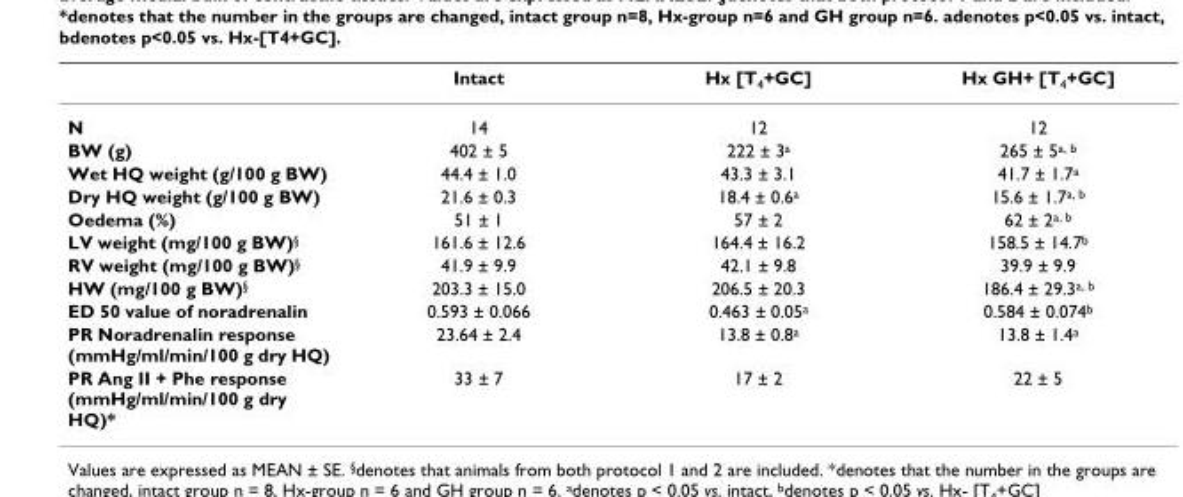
<table><thead><tr><td></td><td>Intact</td><td>Hx [T4+GC]</td><td>Hx GH+ [T4+GC]</td></tr></thead><tbody><tr><td>N</td><td>14</td><td>12</td><td>12</td></tr><tr><td>BW (g)</td><td>402 ± 5</td><td>222 ± 3a</td><td>265 ± 5a, b</td></tr><tr><td>Wet HQ weight (g/100 g BW)</td><td>44.4 ± 1.0</td><td>43.3 ± 3.1</td><td>41.7 ± 1.7a</td></tr><tr><td>Dry HQ weight (g/100 g BW)</td><td>21.6 ± 0.3</td><td>18.4 ± 0.6a</td><td>15.6 ± 1.7a, b</td></tr><tr><td>Oedema (%)</td><td>51 ± 1</td><td>57 ± 2</td><td>62 ± 2a, b</td></tr><tr><td>LV weight (mg/100 g BW)§</td><td>161.6 ± 12.6</td><td>164.4 ± 16.2</td><td>158.5 ± 14.7b</td></tr><tr><td>RV weight (mg/100 g BW)§</td><td>41.9 ± 9.9</td><td>42.1 ± 9.8</td><td>39.9 ± 9.9</td></tr><tr><td>HW (mg/100 g BW)§</td><td>203.3 ± 15.0</td><td>206.5 ± 20.3</td><td>186.4 ± 29.3a, b</td></tr><tr><td>ED 50 value of noradrenalin</td><td>0.593 ± 0.066</td><td>0.463 ± 0.05a</td><td>0.584 ± 0.074b</td></tr><tr><td>PR Noradrenalin response (mmHg/ml/min/100 g dry HQ)</td><td>23.64 ± 2.4</td><td>13.8 ± 0.8a</td><td>13.8 ± 1.4a</td></tr><tr><td>PR Ang II + Phe response (mmHg/ml/min/100 g dry HQ)*</td><td>33 ± 7</td><td>17 ± 2</td><td>22 ± 5</td></tr></tbody></table>